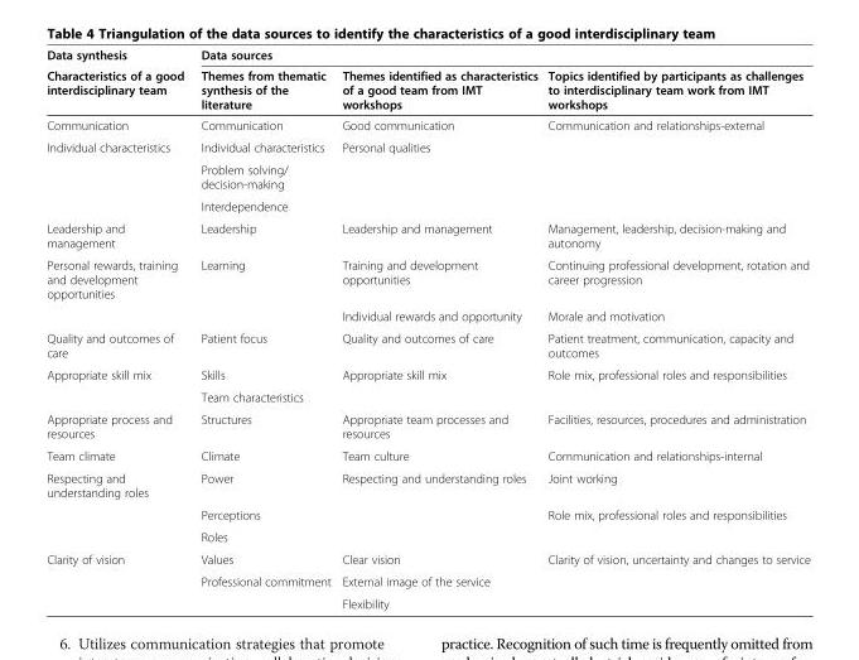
<table><thead><tr><td rowspan="2">Data synthesis Characteristics of a good interdisciplinary team</td><td colspan="3">Data sources</td></tr><tr><td>Themes from thematic synthesis of the literature</td><td>Themes identified as characteristics of a good team from IMT workshops</td><td>Topics identified by participants as challenges to interdisciplinary team work from IMT workshops</td></tr></thead><tbody><tr><td>Communication</td><td>Communication</td><td>Good communication</td><td>Communication and relationships-external</td></tr><tr><td rowspan="3">Individual characteristics</td><td>Individual characteristics</td><td>Personal qualities</td><td></td></tr><tr><td>Problem solving/ decision-making</td><td></td><td></td></tr><tr><td>Interdependence</td><td></td><td></td></tr><tr><td>Leadership and management</td><td>Leadership</td><td>Leadership and management</td><td>Management, leadership, decision-making and autonomy</td></tr><tr><td rowspan="2">Personal rewards, training and development opportunities</td><td>Learning</td><td>Training and development opportunities</td><td>Continuing professional development, rotation and career progression</td></tr><tr><td></td><td>Individual rewards and opportunity</td><td>Morale and motivation</td></tr><tr><td>Quality and outcomes of care</td><td>Patient focus</td><td>Quality and outcomes of care</td><td>Patient treatment, communication, capacity and outcomes</td></tr><tr><td rowspan="2">Appropriate skill mix</td><td>Skills</td><td>Appropriate skill mix</td><td>Role mix, professional roles and responsibilities</td></tr><tr><td>Team characteristics</td><td></td><td></td></tr><tr><td>Appropriate process and resources</td><td>Structures</td><td>Appropriate team processes and resources</td><td>Facilities, resources, procedures and administration</td></tr><tr><td>Team climate</td><td>Climate</td><td>Team culture</td><td>Communication and relationships-internal</td></tr><tr><td rowspan="3">Respecting and understanding roles</td><td>Power</td><td>Respecting and understanding roles</td><td>Joint working</td></tr><tr><td>Perceptions</td><td></td><td>Role mix, professional roles and responsibilities</td></tr><tr><td>Roles</td><td></td><td></td></tr><tr><td rowspan="3">Clarity of vision</td><td>Values</td><td>Clear vision</td><td>Clarity of vision, uncertainty and changes to service</td></tr><tr><td>Professional commitment</td><td>External image of the service</td><td></td></tr><tr><td></td><td>Flexibility</td><td></td></tr></tbody></table>